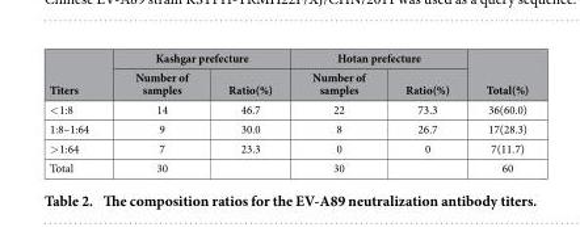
<table><thead><tr><td rowspan="2">Titers</td><td colspan="2">Kashgar prefecture</td><td colspan="2">Hotan prefecture</td><td rowspan="2">Total(%)</td></tr><tr><td>Number of samples</td><td>Ratio(%)</td><td>Number of samples</td><td>Ratio(%)</td></tr></thead><tbody><tr><td>&lt; 1:8</td><td>14</td><td>46.7</td><td>22</td><td>73.3</td><td>36(60.0)</td></tr><tr><td>1:8–1:64</td><td>9</td><td>30.0</td><td>8</td><td>26.7</td><td>17(28.3)</td></tr><tr><td>&gt; 1:64</td><td>7</td><td>23.3</td><td>0</td><td>0</td><td>7(11.7)</td></tr><tr><td>Total</td><td>30</td><td></td><td>30</td><td></td><td>60</td></tr></tbody></table>